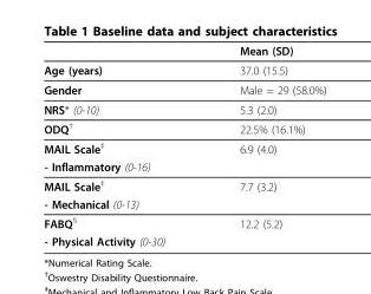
<table><thead><tr><td></td><td>Mean (SD)</td></tr></thead><tbody><tr><td>Age (years)</td><td>37.0 (15.5)</td></tr><tr><td>Gender</td><td>Male = 29 (58.0%)</td></tr><tr><td>NRS* (0-10)</td><td>5.3 (2.0)</td></tr><tr><td>ODQ<sup>†</sup></td><td>22.5% (16.1%)</td></tr><tr><td>MAIL Scale<sup>‡</sup></td><td>6.9 (4.0)</td></tr><tr><td colspan="2">- Inflammatory (0-16)</td></tr><tr><td>MAIL Scale<sup>‡</sup></td><td>7.7 (3.2)</td></tr><tr><td colspan="2">- Mechanical (0-13)</td></tr><tr><td>FABQ<sup>§</sup></td><td>12.2 (5.2)</td></tr><tr><td>- Physical Activity (0-30)</td><td></td></tr></tbody></table>